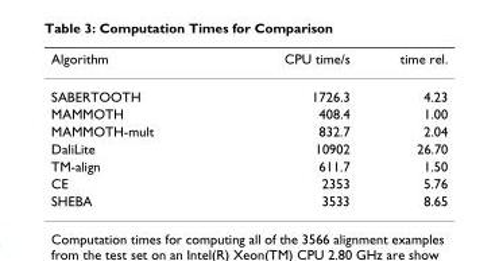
<table><thead><tr><td>Algorithm</td><td>CPU time/s</td><td>time rel.</td></tr></thead><tbody><tr><td>SABERTOOTH</td><td>1726.3</td><td>4.23</td></tr><tr><td>MAMMOTH</td><td>408.4</td><td>1.00</td></tr><tr><td>MAMMOTH-mult</td><td>832.7</td><td>2.04</td></tr><tr><td>DaliLite</td><td>10902</td><td>26.70</td></tr><tr><td>TM-align</td><td>611.7</td><td>1.50</td></tr><tr><td>CE</td><td>2353</td><td>5.76</td></tr><tr><td>SHEBA</td><td>3533</td><td>8.65</td></tr></tbody></table>